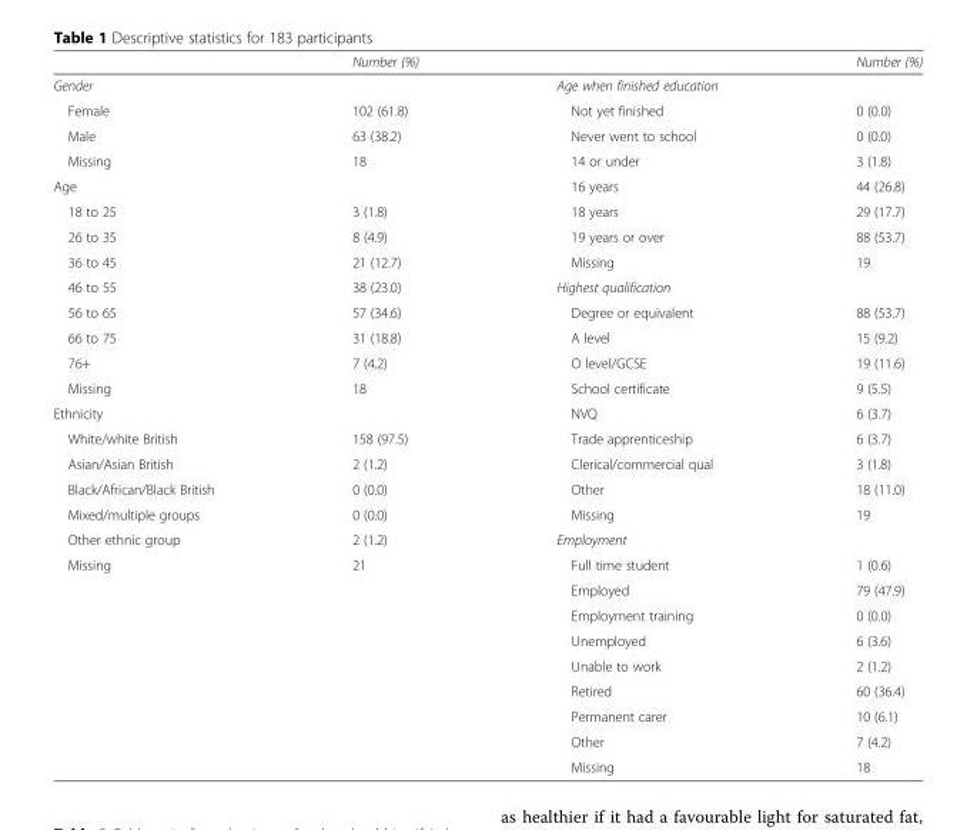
<table><thead><tr><td></td><td>Number (%)</td><td></td><td>Number (%)</td></tr></thead><tbody><tr><td>Gender</td><td></td><td>Age when finished education</td><td></td></tr><tr><td>Female</td><td>102 (61.8)</td><td>Not yet finished</td><td>0 (0.0)</td></tr><tr><td>Male</td><td>63 (38.2)</td><td>Never went to school</td><td>0 (0.0)</td></tr><tr><td>Missing</td><td>18</td><td>14 or under</td><td>3 (1.8)</td></tr><tr><td>Age</td><td></td><td>16 years</td><td>44 (26.8)</td></tr><tr><td>18 to 25</td><td>3 (1.8)</td><td>18 years</td><td>29 (17.7)</td></tr><tr><td>26 to 35</td><td>8 (4.9)</td><td>19 years or over</td><td>88 (53.7)</td></tr><tr><td>36 to 45</td><td>21 (12.7)</td><td>Missing</td><td>19</td></tr><tr><td>46 to 55</td><td>38 (23.0)</td><td>Highest qualification</td><td></td></tr><tr><td>56 to 65</td><td>57 (34.6)</td><td>Degree or equivalent</td><td>88 (53.7)</td></tr><tr><td>66 to 75</td><td>31 (18.8)</td><td>A level</td><td>15 (9.2)</td></tr><tr><td>76+</td><td>7 (4.2)</td><td>O level/GCSE</td><td>19 (11.6)</td></tr><tr><td>Missing</td><td>18</td><td>School certificate</td><td>9 (5.5)</td></tr><tr><td>Ethnicity</td><td></td><td>NVQ</td><td>6 (3.7)</td></tr><tr><td>White/white British</td><td>158 (97.5)</td><td>Trade apprenticeship</td><td>6 (3.7)</td></tr><tr><td>Asian/Asian British</td><td>2 (1.2)</td><td>Clerical/commercial qual</td><td>3 (1.8)</td></tr><tr><td>Black/African/Black British</td><td>0 (0.0)</td><td>Other</td><td>18 (11.0)</td></tr><tr><td>Mixed/multiple groups</td><td>0 (0.0)</td><td>Missing</td><td>19</td></tr><tr><td>Other ethnic group</td><td>2 (1.2)</td><td>Employment</td><td></td></tr><tr><td rowspan="9">Missing</td><td>21</td><td>Full time student</td><td>1 (0.6)</td></tr><tr><td></td><td>Employed</td><td>79 (47.9)</td></tr><tr><td></td><td>Employment training</td><td>0 (0.0)</td></tr><tr><td></td><td>Unemployed</td><td>6 (3.6)</td></tr><tr><td></td><td>Unable to work</td><td>2 (1.2)</td></tr><tr><td></td><td>Retired</td><td>60 (36.4)</td></tr><tr><td></td><td>Permanent carer</td><td>10 (6.1)</td></tr><tr><td></td><td>Other</td><td>7 (4.2)</td></tr><tr><td></td><td>Missing</td><td>18</td></tr></tbody></table>